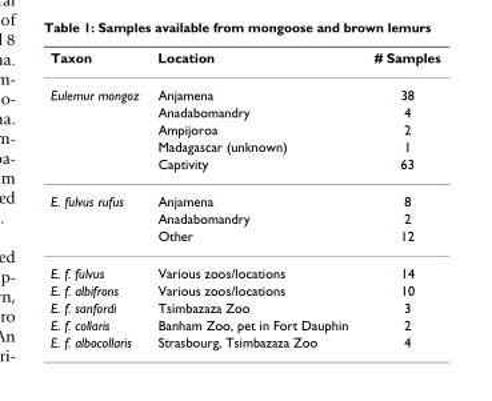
<table><thead><tr><td>Taxon</td><td>Location</td><td># Samples</td></tr></thead><tbody><tr><td rowspan="5">Eulemur mongoz</td><td>Anjamena</td><td>38</td></tr><tr><td>Anadabomandry</td><td>4</td></tr><tr><td>Ampijoroa</td><td>2</td></tr><tr><td>Madagascar (unknown)</td><td>1</td></tr><tr><td>Captivity</td><td>63</td></tr><tr><td rowspan="3">E. fulvus rufus</td><td>Anjamena</td><td>8</td></tr><tr><td>Anadabomandry</td><td>2</td></tr><tr><td>Other</td><td>12</td></tr><tr><td>E. f. fulvus</td><td>Various zoos/locations</td><td>14</td></tr><tr><td>E. f. albifrons</td><td>Various zoos/locations</td><td>10</td></tr><tr><td>E. f. sanfordi</td><td>Tsimbazaza Zoo</td><td>3</td></tr><tr><td>E. f. collaris</td><td>Banham Zoo, pet in Fort Dauphin</td><td>2</td></tr><tr><td>E. f. albocollaris</td><td>Strasbourg, Tsimbazaza Zoo</td><td>4</td></tr></tbody></table>